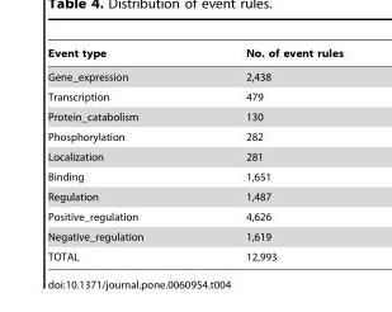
<table><thead><tr><td>Event type</td><td>No. of event rules</td></tr></thead><tbody><tr><td>Gene_expression</td><td>2,438</td></tr><tr><td>Transcription</td><td>479</td></tr><tr><td>Protein_catabolism</td><td>130</td></tr><tr><td>Phosphorylation</td><td>282</td></tr><tr><td>Localization</td><td>281</td></tr><tr><td>Binding</td><td>1,651</td></tr><tr><td>Regulation</td><td>1,487</td></tr><tr><td>Positive_regulation</td><td>4,626</td></tr><tr><td>Negative_regulation</td><td>1,619</td></tr><tr><td>TOTAL</td><td>12,993</td></tr></tbody></table>